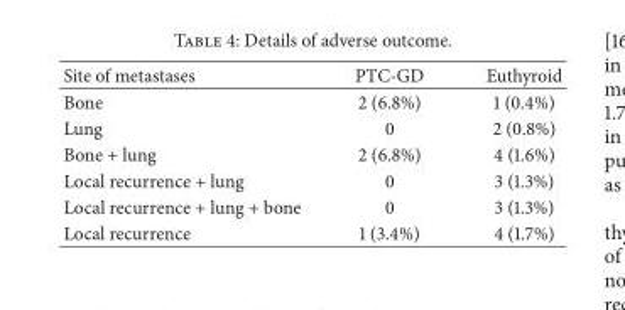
<table><thead><tr><td>Site of metastases</td><td>PTC-GD</td><td>Euthyroid</td></tr></thead><tbody><tr><td>Bone</td><td>2 (6.8%)</td><td>1 (0.4%)</td></tr><tr><td>Lung</td><td>0</td><td>2 (0.8%)</td></tr><tr><td>Bone + lung</td><td>2 (6.8%)</td><td>4 (1.6%)</td></tr><tr><td>Local recurrence + lung</td><td>0</td><td>3 (1.3%)</td></tr><tr><td>Local recurrence + lung + bone</td><td>0</td><td>3 (1.3%)</td></tr><tr><td>Local recurrence</td><td>1 (3.4%)</td><td>4 (1.7%)</td></tr></tbody></table>